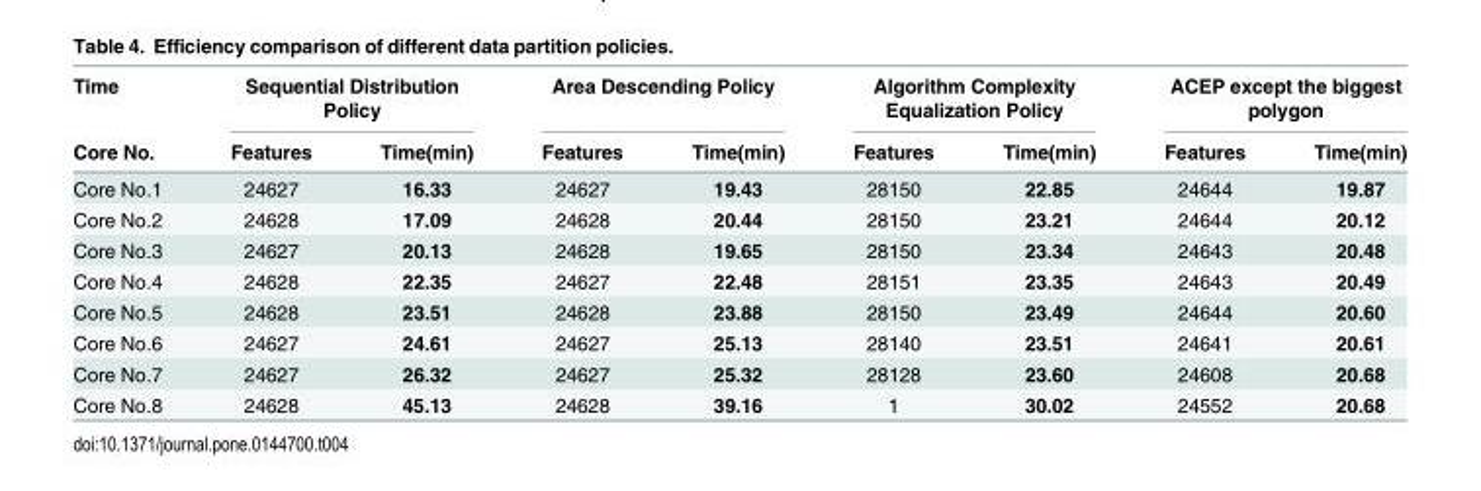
<table><thead><tr><td rowspan="2">Time Core No.</td><td colspan="2">Sequential Distribution Policy</td><td colspan="2">Area Descending Policy</td><td colspan="2">Algorithm Complexity Equalization Policy</td><td colspan="2">ACEP except the biggest polygon</td></tr><tr><td>Features</td><td>Time(min)</td><td>Features</td><td>Time(min)</td><td>Features</td><td>Time(min)</td><td>Features</td><td>Time(min)</td></tr></thead><tbody><tr><td>Core No.1</td><td>24627</td><td>16.33</td><td>24627</td><td>19.43</td><td>28150</td><td>22.85</td><td>24644</td><td>19.87</td></tr><tr><td>Core No.2</td><td>24628</td><td>17.09</td><td>24628</td><td>20.44</td><td>28150</td><td>23.21</td><td>24644</td><td>20.12</td></tr><tr><td>Core No.3</td><td>24627</td><td>20.13</td><td>24628</td><td>19.65</td><td>28150</td><td>23.34</td><td>24643</td><td>20.48</td></tr><tr><td>Core No.4</td><td>24628</td><td>22.35</td><td>24627</td><td>22.48</td><td>28151</td><td>23.35</td><td>24643</td><td>20.49</td></tr><tr><td>Core No.5</td><td>24628</td><td>23.51</td><td>24628</td><td>23.88</td><td>28150</td><td>23.49</td><td>24644</td><td>20.60</td></tr><tr><td>Core No.6</td><td>24627</td><td>24.61</td><td>24627</td><td>25.13</td><td>28140</td><td>23.51</td><td>24641</td><td>20.61</td></tr><tr><td>Core No.7</td><td>24627</td><td>26.32</td><td>24627</td><td>25.32</td><td>28128</td><td>23.60</td><td>24608</td><td>20.68</td></tr><tr><td>Core No.8</td><td>24628</td><td>45.13</td><td>24628</td><td>39.16</td><td>1</td><td>30.02</td><td>24552</td><td>20.68</td></tr></tbody></table>